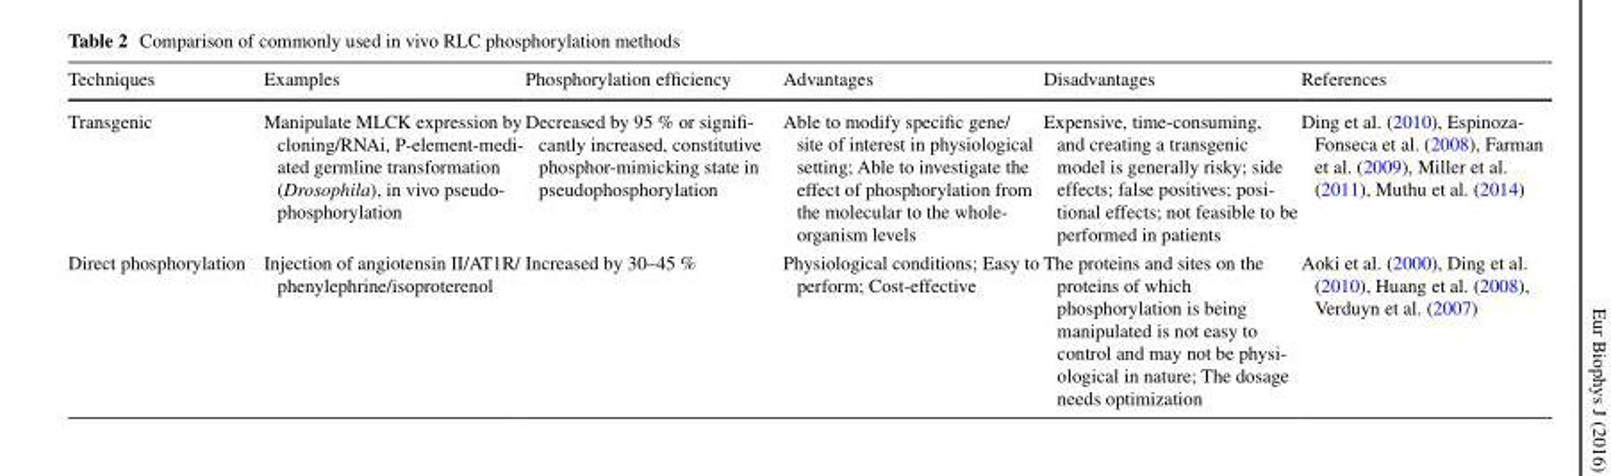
<table><thead><tr><td>Techniques</td><td>Examples</td><td>Phosphorylation efficiency</td><td>Advantages</td><td>Disadvantages</td><td>References</td></tr></thead><tbody><tr><td>Transgenic</td><td>Manipulate MLCK expression by cloning/RNAi, P-element-medi- ated germline transformation (Drosophila), in vivo pseudo- phosphorylation</td><td>Decreased by 95 % or signifi- cantly increased, constitutive phosphor-mimicking state in pseudophosphorylation</td><td>Able to modify specific gene/ site of interest in physiological setting; Able to investigate the effect of phosphorylation from the molecular to the whole- organism levels</td><td>Expensive, time-consuming, and creating a transgenic model is generally risky; side effects; false positives; posi- tional effects; not feasible to be performed in patients</td><td>Ding et al. (2010), Espinoza- Fonseca et al. (2008), Farman et al. (2009), Miller et al. (2011), Muthu et al. (2014)</td></tr><tr><td>Direct phosphorylation</td><td>Injection of angiotensin II/AT1R/ phenylephrine/isoproterenol</td><td>Increased by 30–45 %</td><td>Physiological conditions; Easy to perform; Cost-effective</td><td>The proteins and sites on the proteins of which phosphorylation is being manipulated is not easy to control and may not be physi- ological in nature; The dosage needs optimization</td><td>Aoki et al. (2000), Ding et al. (2010), Huang et al. (2008), Verduyn et al. (2007)</td></tr></tbody></table>